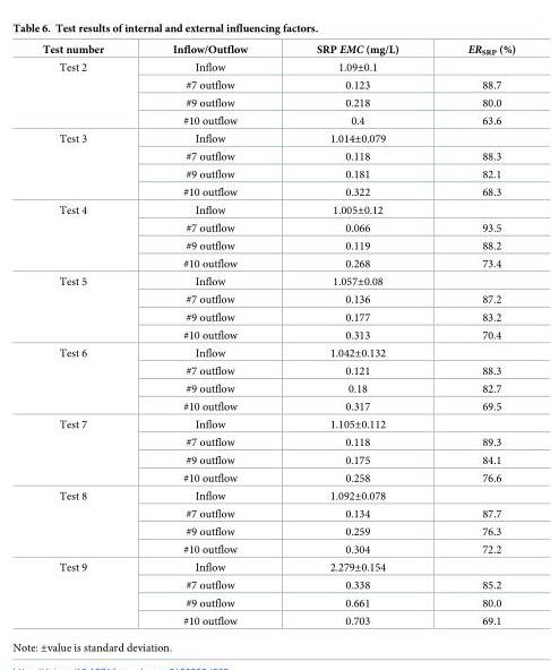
<table><thead><tr><td>Test number</td><td>Inflow/Outflow</td><td>SRP EMC (mg/L)</td><td>ER<sub>SRP</sub> (%)</td></tr></thead><tbody><tr><td rowspan="4">Test 2</td><td>Inflow</td><td>1.09±0.1</td><td></td></tr><tr><td>#7 outflow</td><td>0.123</td><td>88.7</td></tr><tr><td>#9 outflow</td><td>0.218</td><td>80.0</td></tr><tr><td>#10 outflow</td><td>0.4</td><td>63.6</td></tr><tr><td rowspan="4">Test 3</td><td>Inflow</td><td>1.014±0.079</td><td></td></tr><tr><td>#7 outflow</td><td>0.118</td><td>88.3</td></tr><tr><td>#9 outflow</td><td>0.181</td><td>82.1</td></tr><tr><td>#10 outflow</td><td>0.322</td><td>68.3</td></tr><tr><td rowspan="4">Test 4</td><td>Inflow</td><td>1.005±0.12</td><td></td></tr><tr><td>#7 outflow</td><td>0.066</td><td>93.5</td></tr><tr><td>#9 outflow</td><td>0.119</td><td>88.2</td></tr><tr><td>#10 outflow</td><td>0.268</td><td>73.4</td></tr><tr><td rowspan="4">Test 5</td><td>Inflow</td><td>1.057±0.08</td><td></td></tr><tr><td>#7 outflow</td><td>0.136</td><td>87.2</td></tr><tr><td>#9 outflow</td><td>0.177</td><td>83.2</td></tr><tr><td>#10 outflow</td><td>0.313</td><td>70.4</td></tr><tr><td rowspan="4">Test 6</td><td>Inflow</td><td>1.042±0.132</td><td></td></tr><tr><td>#7 outflow</td><td>0.121</td><td>88.3</td></tr><tr><td>#9 outflow</td><td>0.18</td><td>82.7</td></tr><tr><td>#10 outflow</td><td>0.317</td><td>69.5</td></tr><tr><td rowspan="4">Test 7</td><td>Inflow</td><td>1.105±0.112</td><td></td></tr><tr><td>#7 outflow</td><td>0.118</td><td>89.3</td></tr><tr><td>#9 outflow</td><td>0.175</td><td>84.1</td></tr><tr><td>#10 outflow</td><td>0.258</td><td>76.6</td></tr><tr><td rowspan="4">Test 8</td><td>Inflow</td><td>1.092±0.078</td><td></td></tr><tr><td>#7 outflow</td><td>0.134</td><td>87.7</td></tr><tr><td>#9 outflow</td><td>0.259</td><td>76.3</td></tr><tr><td>#10 outflow</td><td>0.304</td><td>72.2</td></tr><tr><td rowspan="4">Test 9</td><td>Inflow</td><td>2.279±0.154</td><td></td></tr><tr><td>#7 outflow</td><td>0.338</td><td>85.2</td></tr><tr><td>#9 outflow</td><td>0.661</td><td>80.0</td></tr><tr><td>#10 outflow</td><td>0.703</td><td>69.1</td></tr></tbody></table>